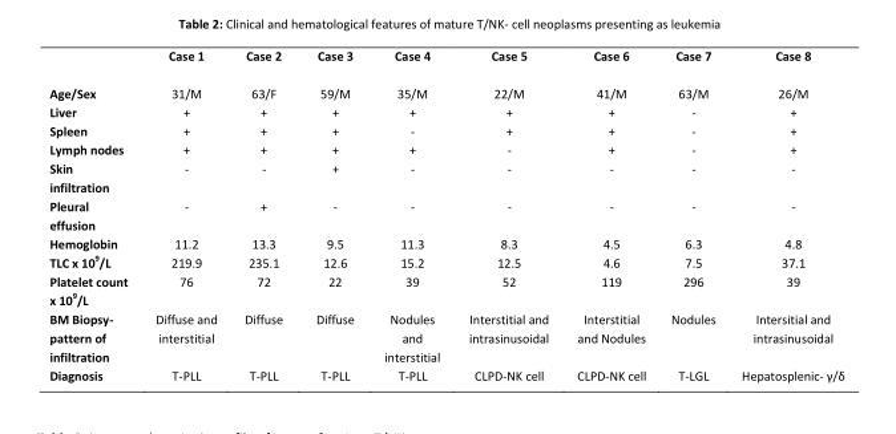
<table><thead><tr><td></td><td>Case 1</td><td>Case 2</td><td>Case 3</td><td>Case 4</td><td>Case 5</td><td>Case 6</td><td>Case 7</td><td>Case 8</td></tr></thead><tbody><tr><td>Age/Sex</td><td>31/M</td><td>63/F</td><td>59/M</td><td>35/M</td><td>22/M</td><td>41/M</td><td>63/M</td><td>26/M</td></tr><tr><td>Liver</td><td>+</td><td>+</td><td>+</td><td>+</td><td>+</td><td>+</td><td>-</td><td>+</td></tr><tr><td>Spleen</td><td>+</td><td>+</td><td>+</td><td>-</td><td>+</td><td>+</td><td>-</td><td>+</td></tr><tr><td>Lymph nodes</td><td>+</td><td>+</td><td>+</td><td>+</td><td>-</td><td>+</td><td>-</td><td>+</td></tr><tr><td>Skin infiltration</td><td>-</td><td>-</td><td>+</td><td>-</td><td>-</td><td>-</td><td>-</td><td>-</td></tr><tr><td>Pleural effusion</td><td>-</td><td>+</td><td>-</td><td>-</td><td>-</td><td>-</td><td>-</td><td>-</td></tr><tr><td>Hemoglobin</td><td>11.2</td><td>13.3</td><td>9.5</td><td>11.3</td><td>8.3</td><td>4.5</td><td>6.3</td><td>4.8</td></tr><tr><td>TLC x 10<sup>9</sup>/L</td><td>219.9</td><td>235.1</td><td>12.6</td><td>15.2</td><td>12.5</td><td>4.6</td><td>7.5</td><td>37.1</td></tr><tr><td>Platelet count x 10<sup>9</sup>/L</td><td>76</td><td>72</td><td>22</td><td>39</td><td>52</td><td>119</td><td>296</td><td>39</td></tr><tr><td>BM Biopsy- pattern of infiltration</td><td>Diffuse and interstitial</td><td>Diffuse</td><td>Diffuse</td><td>Nodules and interstitial</td><td>Interstitial and intrasinusoidal</td><td>Interstitial and Nodules</td><td>Nodules</td><td>Intersitial and intrasinusoidal</td></tr><tr><td>Diagnosis</td><td>T-PLL</td><td>T-PLL</td><td>T-PLL</td><td>T-PLL</td><td>CLPD-NK cell</td><td>CLPD-NK cell</td><td>T-LGL</td><td>Hepatosplenic- γ/δ</td></tr></tbody></table>